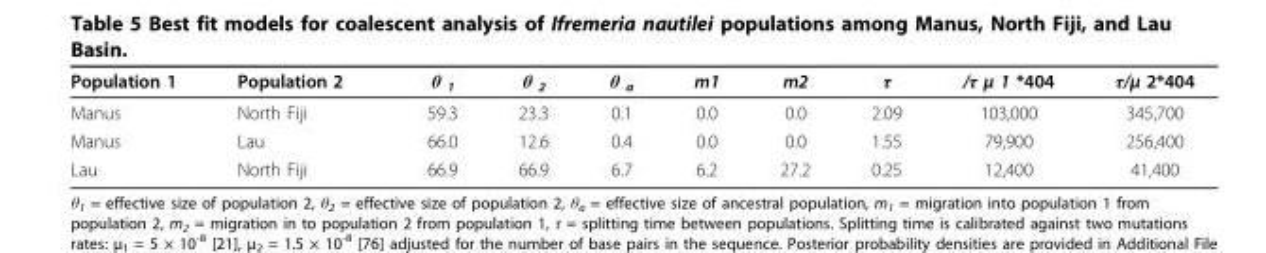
<table><thead><tr><td>Population 1</td><td>Population 2</td><td>θ <sub>1</sub></td><td>θ <sub>2</sub></td><td>θ <sub>a</sub></td><td>m1</td><td>m2</td><td>τ</td><td>/τ μ 1 *404</td><td>τ/μ 2*404</td></tr></thead><tbody><tr><td>Manus</td><td>North Fiji</td><td>59.3</td><td>23.3</td><td>0.1</td><td>0.0</td><td>0.0</td><td>2.09</td><td>103,000</td><td>345,700</td></tr><tr><td>Manus</td><td>Lau</td><td>66.0</td><td>12.6</td><td>0.4</td><td>0.0</td><td>0.0</td><td>1.55</td><td>79,900</td><td>256,400</td></tr><tr><td>Lau</td><td>North Fiji</td><td>66.9</td><td>66.9</td><td>6.7</td><td>6.2</td><td>27.2</td><td>0.25</td><td>12,400</td><td>41,400</td></tr></tbody></table>